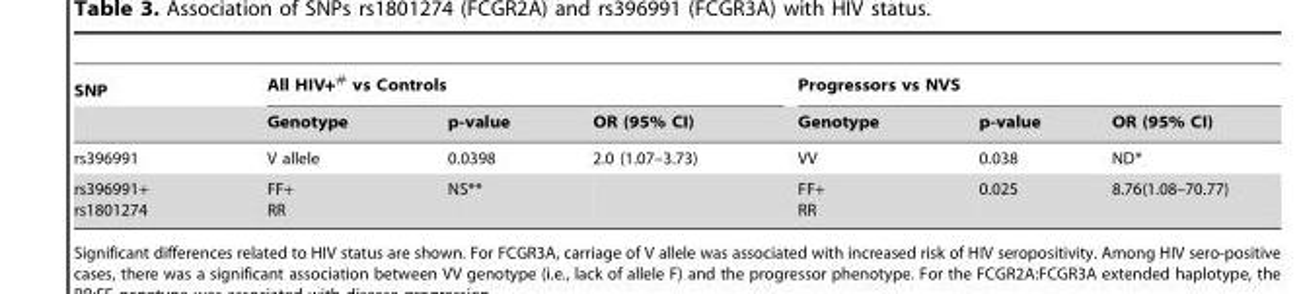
<table><thead><tr><td rowspan="2">SNP</td><td colspan="3">All HIV+# vs Controls</td><td colspan="3">Progressors vs NVS</td></tr><tr><td>Genotype</td><td>p-value</td><td>OR (95% CI)</td><td>Genotype</td><td>p-value</td><td>OR (95% CI)</td></tr></thead><tbody><tr><td>rs396991</td><td>V allele</td><td>0.0398</td><td>2.0 (1.07–3.73)</td><td>VV</td><td>0.038</td><td>ND*</td></tr><tr><td>rs396991+ rs1801274</td><td>FF+ RR</td><td>NS**</td><td></td><td>FF+ RR</td><td>0.025</td><td>8.76(1.08–70.77)</td></tr></tbody></table>